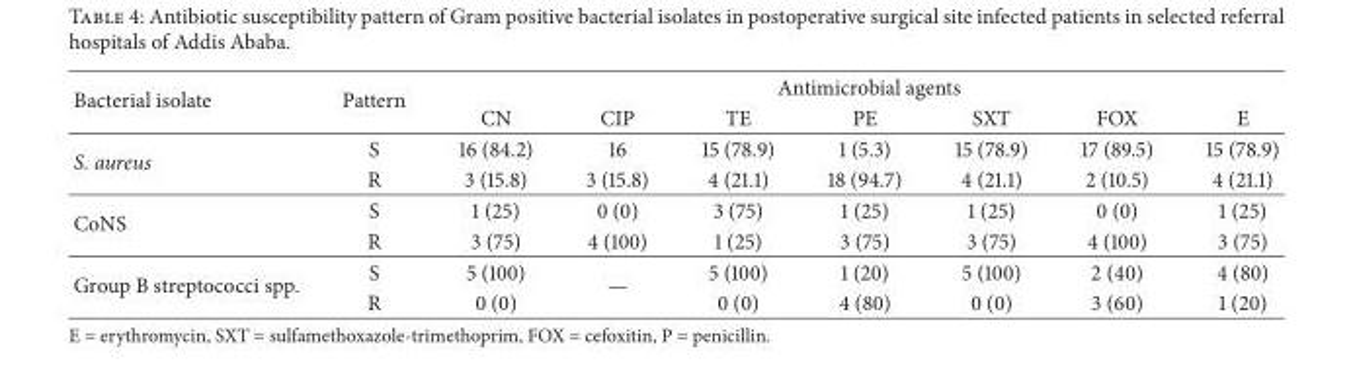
<table><thead><tr><td rowspan="2">Bacterial isolate</td><td rowspan="2">Pattern</td><td colspan="7">Antimicrobial agents</td></tr><tr><td>CN</td><td>CIP</td><td>TE</td><td>PE</td><td>SXT</td><td>FOX</td><td>E</td></tr></thead><tbody><tr><td rowspan="2">S. aureus</td><td>S</td><td>16 (84.2)</td><td>16</td><td>15 (78.9)</td><td>1 (5.3)</td><td>15 (78.9)</td><td>17 (89.5)</td><td>15 (78.9)</td></tr><tr><td>R</td><td>3 (15.8)</td><td>3 (15.8)</td><td>4 (21.1)</td><td>18 (94.7)</td><td>4 (21.1)</td><td>2 (10.5)</td><td>4 (21.1)</td></tr><tr><td rowspan="2">CoNS</td><td>S</td><td>1 (25)</td><td>0 (0)</td><td>3 (75)</td><td>1 (25)</td><td>1 (25)</td><td>0 (0)</td><td>1 (25)</td></tr><tr><td>R</td><td>3 (75)</td><td>4 (100)</td><td>1 (25)</td><td>3 (75)</td><td>3 (75)</td><td>4 (100)</td><td>3 (75)</td></tr><tr><td rowspan="2">Group B streptococci spp.</td><td>S</td><td>5 (100)</td><td rowspan="2">—</td><td>5 (100)</td><td>1 (20)</td><td>5 (100)</td><td>2 (40)</td><td>4 (80)</td></tr><tr><td>R</td><td>0 (0)</td><td>0 (0)</td><td>4 (80)</td><td>0 (0)</td><td>3 (60)</td><td>1 (20)</td></tr></tbody></table>